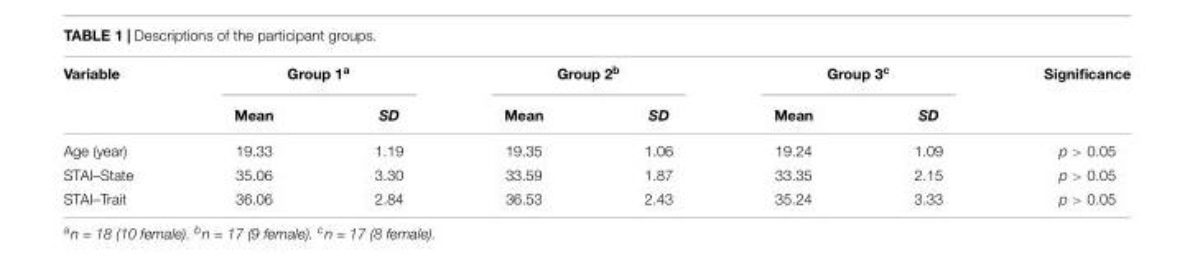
<table><thead><tr><td rowspan="2">Variable</td><td colspan="2">Group 1<sup>a</sup></td><td colspan="2">Group 2<sup>b</sup></td><td colspan="2">Group 3<sup>c</sup></td><td rowspan="2">Significance</td></tr><tr><td>Mean</td><td>SD</td><td>Mean</td><td>SD</td><td>Mean</td><td>SD</td></tr></thead><tbody><tr><td>Age (year)</td><td>19.33</td><td>1.19</td><td>19.35</td><td>1.06</td><td>19.24</td><td>1.09</td><td>p &gt; 0.05</td></tr><tr><td>STAI–State</td><td>35.06</td><td>3.30</td><td>33.59</td><td>1.87</td><td>33.35</td><td>2.15</td><td>p &gt; 0.05</td></tr><tr><td>STAI–Trait</td><td>36.06</td><td>2.84</td><td>36.53</td><td>2.43</td><td>35.24</td><td>3.33</td><td>p &gt; 0.05</td></tr></tbody></table>